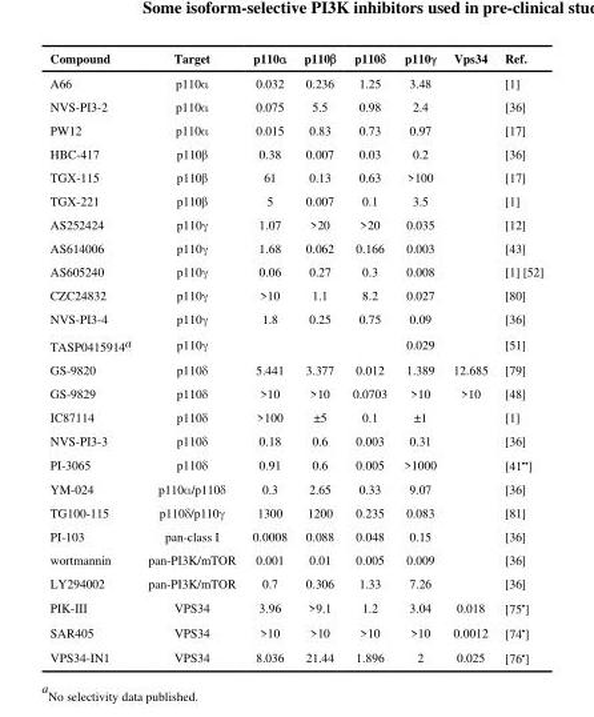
<table><thead><tr><td>Compound</td><td>Target</td><td>p110α</td><td>p110β</td><td>p110δ</td><td>p110γ</td><td>Vps34</td><td>Ref.</td></tr></thead><tbody><tr><td>A66</td><td>p110α</td><td>0.032</td><td>0.236</td><td>1.25</td><td>3.48</td><td></td><td>[1]</td></tr><tr><td>NVS-PI3-2</td><td>p110α</td><td>0.075</td><td>5.5</td><td>0.98</td><td>2.4</td><td></td><td>[36]</td></tr><tr><td>PW12</td><td>p110α</td><td>0.015</td><td>0.83</td><td>0.73</td><td>0.97</td><td></td><td>[17]</td></tr><tr><td>HBC-417</td><td>p110β</td><td>0.38</td><td>0.007</td><td>0.03</td><td>0.2</td><td></td><td>[36]</td></tr><tr><td>TGX-115</td><td>p110β</td><td>61</td><td>0.13</td><td>0.63</td><td>&gt;100</td><td></td><td>[17]</td></tr><tr><td>TGX-221</td><td>p110β</td><td>5</td><td>0.007</td><td>0.1</td><td>3.5</td><td></td><td>[1]</td></tr><tr><td>AS252424</td><td>p110γ</td><td>1.07</td><td>&gt;20</td><td>&gt;20</td><td>0.035</td><td></td><td>[12]</td></tr><tr><td>AS614006</td><td>p110γ</td><td>1.68</td><td>0.062</td><td>0.166</td><td>0.003</td><td></td><td>[43]</td></tr><tr><td>AS605240</td><td>p110γ</td><td>0.06</td><td>0.27</td><td>0.3</td><td>0.008</td><td></td><td>[1] [52]</td></tr><tr><td>CZC24832</td><td>p110γ</td><td>&gt;10</td><td>1.1</td><td>8.2</td><td>0.027</td><td></td><td>[80]</td></tr><tr><td>NVS-PI3-4</td><td>p110γ</td><td>1.8</td><td>0.25</td><td>0.75</td><td>0.09</td><td></td><td>[36]</td></tr><tr><td>TASP0415914<sup>a</sup></td><td>p110γ</td><td></td><td></td><td></td><td>0.029</td><td></td><td>[51]</td></tr><tr><td>GS-9820</td><td>p110δ</td><td>5.441</td><td>3.377</td><td>0.012</td><td>1.389</td><td>12.685</td><td>[79]</td></tr><tr><td>GS-9829</td><td>p110δ</td><td>&gt;10</td><td>&gt;10</td><td>0.0703</td><td>&gt;10</td><td>&gt;10</td><td>[48]</td></tr><tr><td>IC87114</td><td>p110δ</td><td>&gt;100</td><td>±5</td><td>0.1</td><td>±1</td><td></td><td>[1]</td></tr><tr><td>NVS-PI3-3</td><td>p110δ</td><td>0.18</td><td>0.6</td><td>0.003</td><td>0.31</td><td></td><td>[36]</td></tr><tr><td>PI-3065</td><td>p110δ</td><td>0.91</td><td>0.6</td><td>0.005</td><td>&gt;1000</td><td></td><td>[41<sup>••</sup>]</td></tr><tr><td>YM-024</td><td>p110α/p110δ</td><td>0.3</td><td>2.65</td><td>0.33</td><td>9.07</td><td></td><td>[36]</td></tr><tr><td>TG100-115</td><td>p110δ/p110γ</td><td>1300</td><td>1200</td><td>0.235</td><td>0.083</td><td></td><td>[81]</td></tr><tr><td>PI-103</td><td>pan-class I</td><td>0.0008</td><td>0.088</td><td>0.048</td><td>0.15</td><td></td><td>[36]</td></tr><tr><td>wortmannin</td><td>pan-PI3K/mTOR</td><td>0.001</td><td>0.01</td><td>0.005</td><td>0.009</td><td></td><td>[36]</td></tr><tr><td>LY294002</td><td>pan-PI3K/mTOR</td><td>0.7</td><td>0.306</td><td>1.33</td><td>7.26</td><td></td><td>[36]</td></tr><tr><td>PIK-III</td><td>VPS34</td><td>3.96</td><td>&gt;9.1</td><td>1.2</td><td>3.04</td><td>0.018</td><td>[75<sup>•</sup>]</td></tr><tr><td>SAR405</td><td>VPS34</td><td>&gt;10</td><td>&gt;10</td><td>&gt;10</td><td>&gt;10</td><td>0.0012</td><td>[74<sup>•</sup>]</td></tr><tr><td>VPS34-IN1</td><td>VPS34</td><td>8.036</td><td>21.44</td><td>1.896</td><td>2</td><td>0.025</td><td>[76<sup>•</sup>]</td></tr></tbody></table>